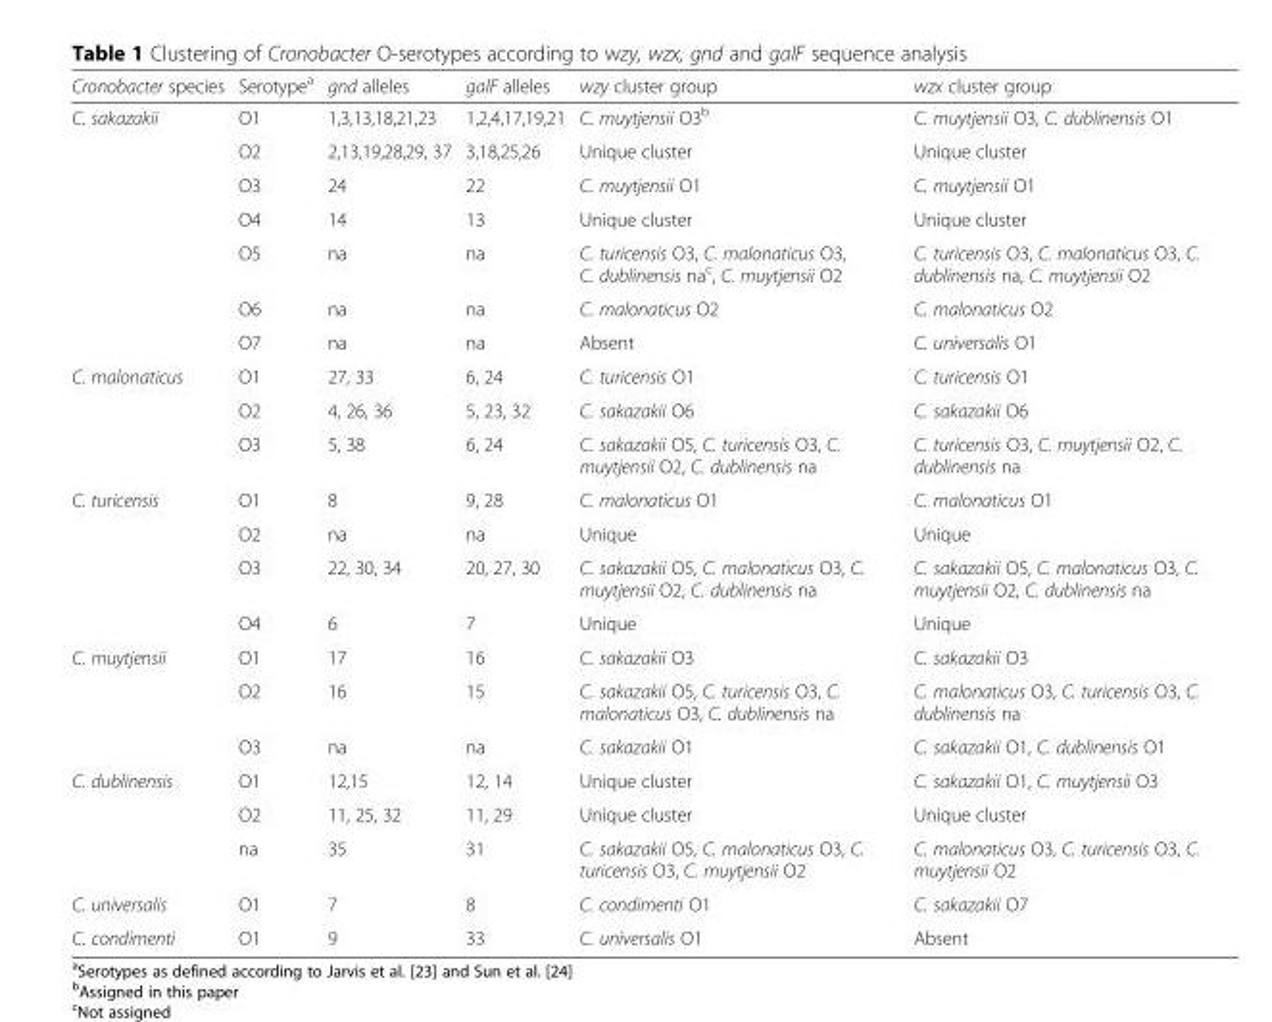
<table><thead><tr><td>Cronobacter species</td><td>Serotype<sup>a</sup></td><td>gnd alleles</td><td>galF alleles</td><td>wzy cluster group</td><td>wzx cluster group</td></tr></thead><tbody><tr><td rowspan="7">C. sakazakii</td><td>O1</td><td>1,3,13,18,21,23</td><td>1,2,4,17,19,21</td><td>C. muytjensii O3<sup>b</sup></td><td>C. muytjensii O3, C. dublinensis O1</td></tr><tr><td>O2</td><td>2,13,19,28,29, 37</td><td>3,18,25,26</td><td>Unique cluster</td><td>Unique cluster</td></tr><tr><td>O3</td><td>24</td><td>22</td><td>C. muytjensii O1</td><td>C. muytjensii O1</td></tr><tr><td>O4</td><td>14</td><td>13</td><td>Unique cluster</td><td>Unique cluster</td></tr><tr><td>O5</td><td>na</td><td>na</td><td>C. turicensis O3, C. malonaticus O3, C. dublinensis na<sup>c</sup>, C. muytjensii O2</td><td>C. turicensis O3, C. malonaticus O3, C. dublinensis na, C. muytjensii O2</td></tr><tr><td>O6</td><td>na</td><td>na</td><td>C. malonaticus O2</td><td>C. malonaticus O2</td></tr><tr><td>O7</td><td>na</td><td>na</td><td>Absent</td><td>C. universalis O1</td></tr><tr><td rowspan="3">C. malonaticus</td><td>O1</td><td>27, 33</td><td>6, 24</td><td>C. turicensis O1</td><td>C. turicensis O1</td></tr><tr><td>O2</td><td>4, 26, 36</td><td>5, 23, 32</td><td>C. sakazakii O6</td><td>C. sakazakii O6</td></tr><tr><td>O3</td><td>5, 38</td><td>6, 24</td><td>C. sakazakii O5, C. turicensis O3, C. muytjensii O2, C. dublinensis na</td><td>C. turicensis O3, C. muytjensii O2, C. dublinensis na</td></tr><tr><td rowspan="4">C. turicensis</td><td>O1</td><td>8</td><td>9, 28</td><td>C. malonaticus O1</td><td>C. malonaticus O1</td></tr><tr><td>O2</td><td>na</td><td>na</td><td>Unique</td><td>Unique</td></tr><tr><td>O3</td><td>22, 30, 34</td><td>20, 27, 30</td><td>C. sakazakii O5, C. malonaticus O3, C. muytjensii O2, C. dublinensis na</td><td>C. sakazakii O5, C. malonaticus O3, C. muytjensii O2, C. dublinensis na</td></tr><tr><td>O4</td><td>6</td><td>7</td><td>Unique</td><td>Unique</td></tr><tr><td rowspan="3">C. muytjensii</td><td>O1</td><td>17</td><td>16</td><td>C. sakazakii O3</td><td>C. sakazakii O3</td></tr><tr><td>O2</td><td>16</td><td>15</td><td>C. sakazakii O5, C. turicensis O3, C. malonaticus O3, C. dublinensis na</td><td>C. malonaticus O3, C. turicensis O3, C. dublinensis na</td></tr><tr><td>O3</td><td>na</td><td>na</td><td>C. sakazakii O1</td><td>C. sakazakii O1, C. dublinensis O1</td></tr><tr><td rowspan="3">C. dublinensis</td><td>O1</td><td>12,15</td><td>12, 14</td><td>Unique cluster</td><td>C. sakazakii O1, C. muytjensii O3</td></tr><tr><td>O2</td><td>11, 25, 32</td><td>11, 29</td><td>Unique cluster</td><td>Unique cluster</td></tr><tr><td>na</td><td>35</td><td>31</td><td>C. sakazakii O5, C. malonaticus O3, C. turicensis O3, C. muytjensii O2</td><td>C. malonaticus O3, C. turicensis O3, C. muytjensii O2</td></tr><tr><td>C. universalis</td><td>O1</td><td>7</td><td>8</td><td>C. condimenti O1</td><td>C. sakazakii O7</td></tr><tr><td>C. condimenti</td><td>O1</td><td>9</td><td>33</td><td>C. universalis O1</td><td>Absent</td></tr></tbody></table>